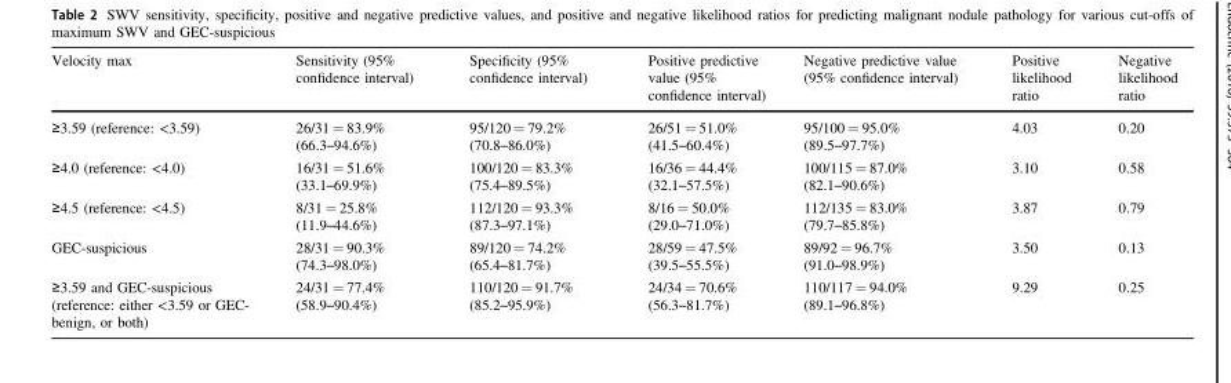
<table><thead><tr><td>Velocity max</td><td>Sensitivity (95% confidence interval)</td><td>Specificity (95% confidence interval)</td><td>Positive predictive value (95% confidence interval)</td><td>Negative predictive value (95% confidence interval)</td><td>Positive likelihood ratio</td><td>Negative likelihood ratio</td></tr></thead><tbody><tr><td>≥3.59 (reference: &lt;3.59)</td><td>26/31 = 83.9% (66.3–94.6%)</td><td>95/120 = 79.2% (70.8–86.0%)</td><td>26/51 = 51.0% (41.5–60.4%)</td><td>95/100 = 95.0% (89.5–97.7%)</td><td>4.03</td><td>0.20</td></tr><tr><td>≥4.0 (reference: &lt;4.0)</td><td>16/31 = 51.6% (33.1–69.9%)</td><td>100/120 = 83.3% (75.4–89.5%)</td><td>16/36 = 44.4% (32.1–57.5%)</td><td>100/115 = 87.0% (82.1–90.6%)</td><td>3.10</td><td>0.58</td></tr><tr><td>≥4.5 (reference: &lt;4.5)</td><td>8/31 = 25.8% (11.9–44.6%)</td><td>112/120 = 93.3% (87.3–97.1%)</td><td>8/16 = 50.0% (29.0–71.0%)</td><td>112/135 = 83.0% (79.7–85.8%)</td><td>3.87</td><td>0.79</td></tr><tr><td>GEC-suspicious</td><td>28/31 = 90.3% (74.3–98.0%)</td><td>89/120 = 74.2% (65.4–81.7%)</td><td>28/59 = 47.5% (39.5–55.5%)</td><td>89/92 = 96.7% (91.0–98.9%)</td><td>3.50</td><td>0.13</td></tr><tr><td>≥3.59 and GEC-suspicious (reference: either &lt;3.59 or GEC- benign, or both)</td><td>24/31 = 77.4% (58.9–90.4%)</td><td>110/120 = 91.7% (85.2–95.9%)</td><td>24/34 = 70.6% (56.3–81.7%)</td><td>110/117 = 94.0% (89.1–96.8%)</td><td>9.29</td><td>0.25</td></tr></tbody></table>